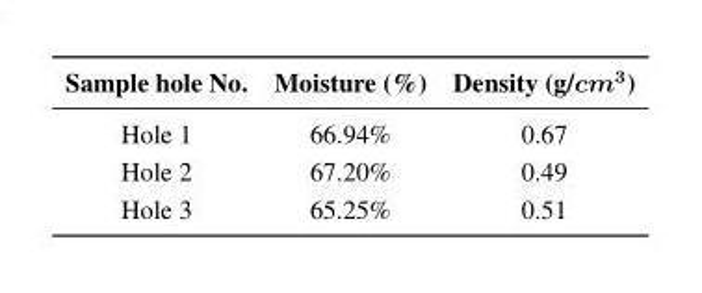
<table><thead><tr><td>Sample hole No.</td><td>Moisture (%)</td><td>Density (g/cm<sup>3</sup>)</td></tr></thead><tbody><tr><td>Hole 1</td><td>66.94%</td><td>0.67</td></tr><tr><td>Hole 2</td><td>67.20%</td><td>0.49</td></tr><tr><td>Hole 3</td><td>65.25%</td><td>0.51</td></tr></tbody></table>